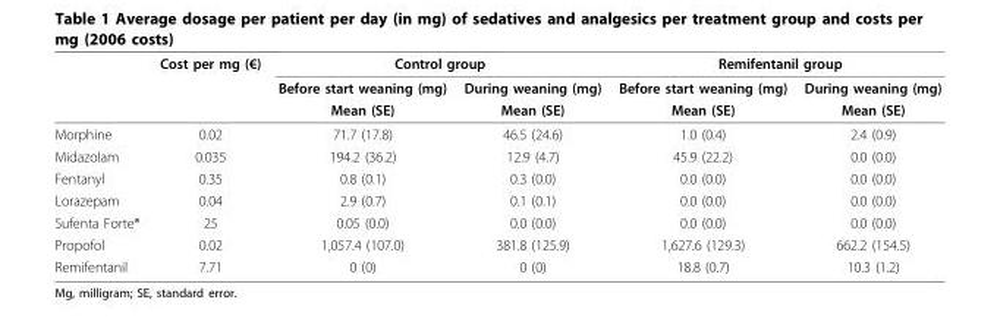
<table><thead><tr><td rowspan="3"></td><td rowspan="3">Cost per mg (€)</td><td colspan="2">Control group</td><td colspan="2">Remifentanil group</td></tr><tr><td rowspan="2">Before start weaning (mg) Mean (SE)</td><td rowspan="2">During weaning (mg) Mean (SE)</td><td rowspan="2">Before start weaning (mg) Mean (SE)</td><td rowspan="2">During weaning (mg) Mean (SE)</td></tr><tr></tr></thead><tbody><tr><td>Morphine</td><td>0.02</td><td>71.7 (17.8)</td><td>46.5 (24.6)</td><td>1.0 (0.4)</td><td>2.4 (0.9)</td></tr><tr><td>Midazolam</td><td>0.035</td><td>194.2 (36.2)</td><td>12.9 (4.7)</td><td>45.9 (22.2)</td><td>0.0 (0.0)</td></tr><tr><td>Fentanyl</td><td>0.35</td><td>0.8 (0.1)</td><td>0.3 (0.0)</td><td>0.0 (0.0)</td><td>0.0 (0.0)</td></tr><tr><td>Lorazepam</td><td>0.04</td><td>2.9 (0.7)</td><td>0.1 (0.1)</td><td>0.0 (0.0)</td><td>0.0 (0.0)</td></tr><tr><td>Sufenta Forte<sup>®</sup></td><td>25</td><td>0.05 (0.0)</td><td>0.0 (0.0)</td><td>0.0 (0.0)</td><td>0.0 (0.0)</td></tr><tr><td>Propofol</td><td>0.02</td><td>1,057.4 (107.0)</td><td>381.8 (125.9)</td><td>1,627.6 (129.3)</td><td>662.2 (154.5)</td></tr><tr><td>Remifentanil</td><td>7.71</td><td>0 (0)</td><td>0 (0)</td><td>18.8 (0.7)</td><td>10.3 (1.2)</td></tr></tbody></table>